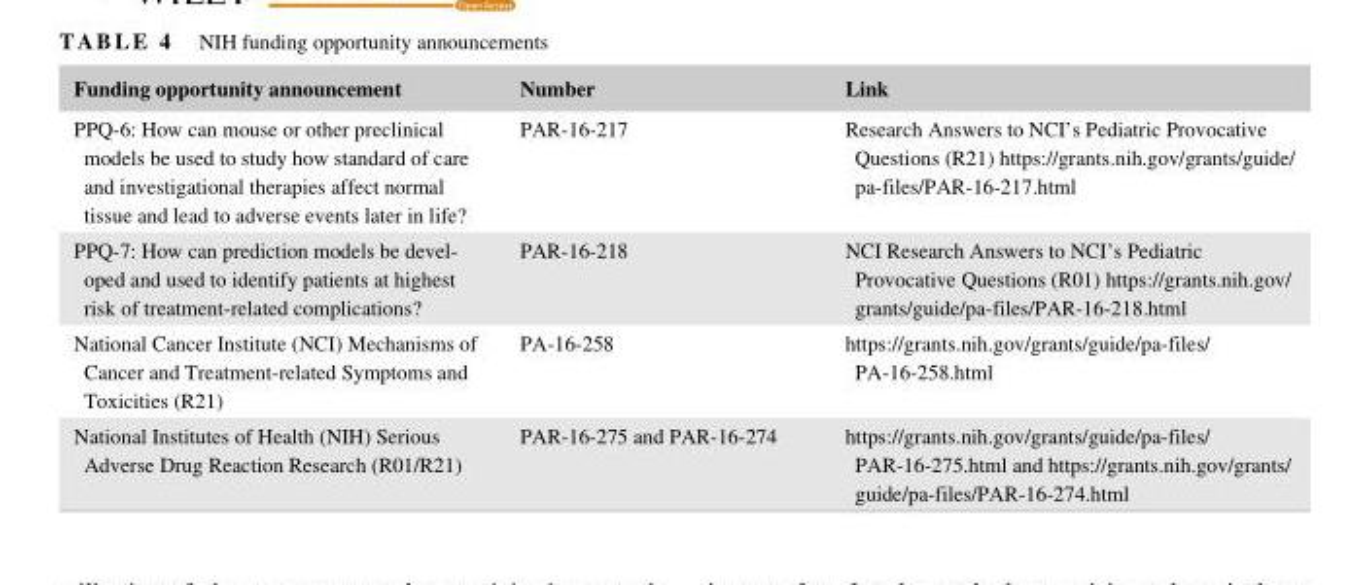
<table><thead><tr><td>Funding opportunity announcement</td><td>Number</td><td>Link</td></tr></thead><tbody><tr><td>PPQ- 6: How can mouse or other preclinical models be used to study how standard of care and investigational therapies affect normal tissue and lead to adverse events later in life?</td><td>PAR- 16- 217</td><td>Research Answers to NCI’s Pediatric Provocative Questions (R21) https://grants.nih.gov/grants/guide/ pa-files/PAR-16-217.html</td></tr><tr><td>PPQ- 7: How can prediction models be devel- oped and used to identify patients at highest risk of treatment- related complications?</td><td>PAR- 16- 218</td><td>NCI Research Answers to NCI’s Pediatric Provocative Questions (R01) https://grants.nih.gov/ grants/guide/pa-files/PAR-16-218.html</td></tr><tr><td>National Cancer Institute (NCI) Mechanisms of Cancer and Treatment- related Symptoms and Toxicities (R21)</td><td>PA- 16- 258</td><td>https://grants.nih.gov/grants/guide/pa-files/ PA-16-258.html</td></tr><tr><td>National Institutes of Health (NIH) Serious Adverse Drug Reaction Research (R01/R21)</td><td>PAR- 16- 275 and PAR- 16- 274</td><td>https://grants.nih.gov/grants/guide/pa-files/ PAR-16-275.html and https://grants.nih.gov/grants/ guide/pa-files/PAR-16-274.html</td></tr></tbody></table>